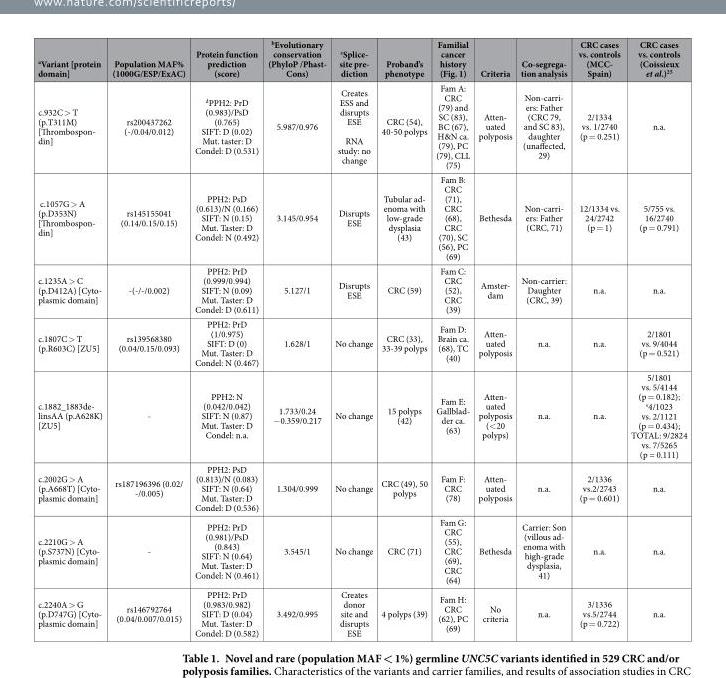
<table><thead><tr><td>aVariant [protein domain]</td><td>Population MAF% (1000G/ESP/ExAC)</td><td>Protein function prediction (score)</td><td>bEvolutionary conservation (PhyloP /Phast- Cons)</td><td>cSplice- site pre- diction</td><td>Proband’s phenotype</td><td>Familial cancer history (Fig. 1)</td><td>Criteria</td><td>Co-segrega- tion analysis</td><td>CRC cases vs. controls (MCC- Spain)</td><td>CRC cases vs. controls (Coissieux et al.)<sup>25</sup></td></tr></thead><tbody><tr><td>c.932C &gt; T (p.T311M) [Thrombospon- din]</td><td>rs200437262 (- /0.04/0.012)</td><td>dPPH2: PrD (0.983)/PsD (0.765) SIFT: D (0.02) Mut. taster: D Condel: D (0.531)</td><td>5.987/0.976</td><td>Creates ESS and disrupts ESE RNA study: no change</td><td>CRC (54), 40-50 polyps</td><td>Fam A: CRC (79) and SC (83), BC (67), H&amp;N ca. (79), PC (79), CLL (75)</td><td>Atten- uated polyposis</td><td>Non-carri- ers: Father (CRC 79, and SC 83), daughter (unaffected, 29)</td><td>2/1334 vs. 1/2740 (p = 0.251)</td><td>n.a.</td></tr><tr><td>c.1057G &gt; A (p.D353N) [Thrombospon- din]</td><td>rs145155041 (0.14/0.15/0.15)</td><td>PPH2: PsD (0.613)/N (0.166) SIFT: N (0.15) Mut. Taster: D Condel: N (0.492)</td><td>3.145/0.954</td><td>Disrupts ESE</td><td>Tubular ad- enoma with low-grade dysplasia (43)</td><td>Fam B: CRC (71), CRC (68), CRC (70), SC (56), PC (69)</td><td>Bethesda</td><td>Non-carri- ers: Father (CRC, 71)</td><td>12/1334 vs. 24/2742 (p = 1)</td><td>5/755 vs. 16/2740 (p = 0.791)</td></tr><tr><td>c.1235A &gt; C (p.D412A) [Cyto- plasmic domain]</td><td>-(-/-/0.002)</td><td>PPH2: PrD (0.999/0.994) SIFT: N (0.09) Mut. Taster: D Condel: D (0.611)</td><td>5.127/1</td><td>Disrupts ESE</td><td>CRC (59)</td><td>Fam C: CRC (52), CRC (39)</td><td>Amster- dam</td><td>Non-carrier: Daughter (CRC, 39)</td><td>n.a.</td><td>n.a.</td></tr><tr><td>c.1807C &gt; T (p.R603C) [ZU5]</td><td>rs139568380 (0.04/0.15/0.093)</td><td>PPH2: PrD (1/0.975) SIFT: D (0) Mut. Taster: D Condel: N (0.467)</td><td>1.628/1</td><td>No change</td><td>CRC (33), 33-39 polyps</td><td>Fam D: Brain ca. (68), TC (40)</td><td>Atten- uated polyposis</td><td>n.a.</td><td>n.a.</td><td>2/1801 vs. 9/4044 (p = 0.521)</td></tr><tr><td>c.1882_1883de- linsAA (p.A628K) [ZU5]</td><td>-</td><td>PPH2: N (0.042/0.042) SIFT: N (0.87) Mut. Taster: D Condel: n.a.</td><td>1.733/0.24 − 0.359/0.217</td><td>No change</td><td>15 polyps (42)</td><td>Fam E: Gallblad- der ca. (63)</td><td>Atten- uated polyposis (&lt; 20 polyps)</td><td>n.a.</td><td>n.a.</td><td>5/1801 vs. 5/4144 (p = 0.182); e4/1023 vs. 2/1121 (p = 0.434); TOTAL: 9/2824 vs. 7/5265 (p = 0.111)</td></tr><tr><td>c.2002G &gt; A (p.A668T) [Cyto- plasmic domain]</td><td>rs187196396 (0.02/ -/0.005)</td><td>PPH2: PsD (0.813)/N (0.083) SIFT: N (0.64) Mut. Taster: D Condel: D (0.536)</td><td>1.304/0.999</td><td>No change</td><td>CRC (49), 50 polyps</td><td>Fam F: CRC (78)</td><td>Atten- uated polyposis</td><td>n.a.</td><td>2/1336 vs.2/2743 (p = 0.601)</td><td>n.a.</td></tr><tr><td>c.2210G &gt; A (p.S737N) [Cyto- plasmic domain]</td><td>-</td><td>PPH2: PrD (0.981)/PsD (0.843) SIFT: N (0.64) Mut. Taster: D Condel: N (0.461)</td><td>3.545/1</td><td>No change</td><td>CRC (71)</td><td>Fam G: CRC (55), CRC (69), CRC (64)</td><td>Bethesda</td><td>Carrier: Son (villous ad- enoma with high-grade dysplasia, 41)</td><td>n.a.</td><td>n.a.</td></tr><tr><td>c.2240A &gt; G (p.D747G) [Cyto- plasmic domain]</td><td>rs146792764 (0.04/0.007/0.015)</td><td>PPH2: PrD (0.983/0.982) SIFT: D (0.04) Mut. Taster: D Condel: D (0.582)</td><td>3.492/0.995</td><td>Creates donor site and disrupts ESE</td><td>4 polyps (39)</td><td>Fam H: CRC (62), PC (69)</td><td>No criteria</td><td>n.a.</td><td>3/1336 vs.5/2744 (p = 0.722)</td><td>n.a.</td></tr></tbody></table>